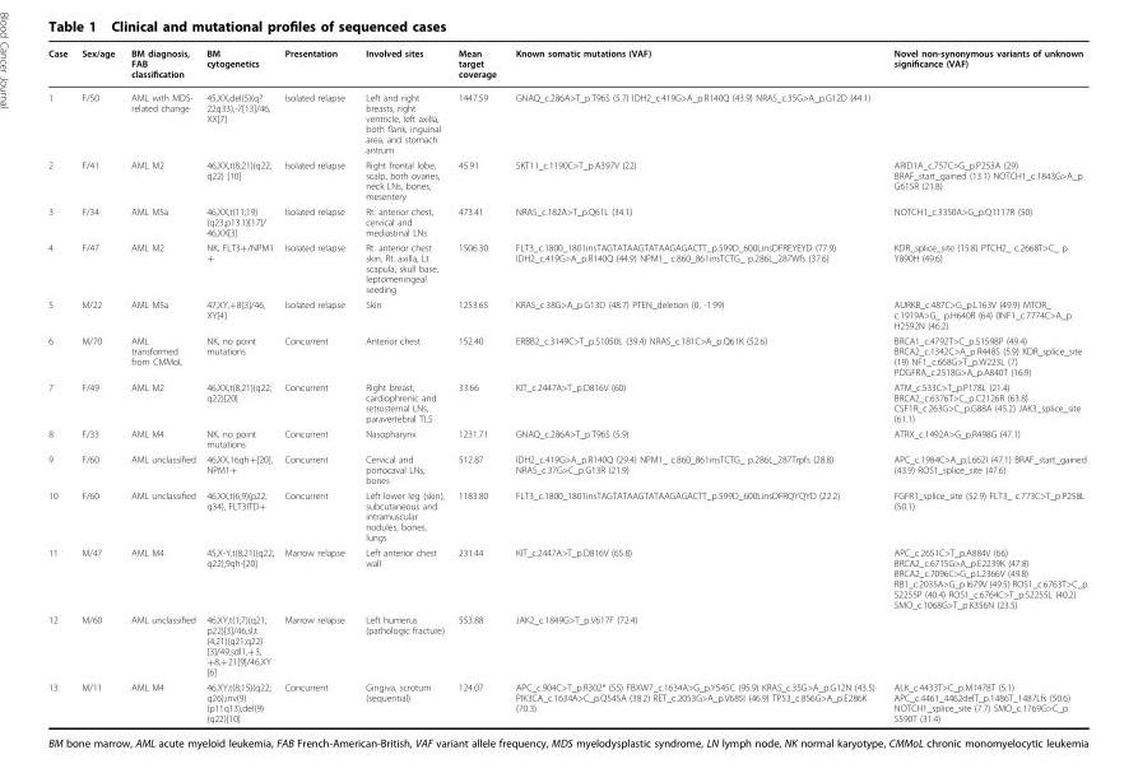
<table><thead><tr><td>Case</td><td>Sex/age</td><td>BM diagnosis, FAB classification</td><td>BM cytogenetics</td><td>Presentation</td><td>Involved sites</td><td>Mean target coverage</td><td>Known somatic mutations (VAF)</td><td>Novel non-synonymous variants of unknown significance (VAF)</td></tr></thead><tbody><tr><td>1</td><td>F/50</td><td>AML with MDS- related change</td><td>45,XX,del(5)(q? 22q33),-7[13]/46, XX[7]</td><td>Isolated relapse</td><td>Left and right breasts, right ventricle, left axilla, both flank, inguinal area, and stomach antrum</td><td>1447.59</td><td>GNAQ_c.286A&gt;T_p.T96S (5.7) IDH2_c.419G&gt;A_p.R140Q (43.9) NRAS_c.35G&gt;A_p.G12D (44.1)</td><td></td></tr><tr><td>2</td><td>F/41</td><td>AML M2</td><td>46,XX,t(8;21)(q22; q22) [10]</td><td>Isolated relapse</td><td>Right frontal lobe, scalp, both ovaries, neck LNs, bones, mesentery</td><td>45.91</td><td>SKT11_c.1190C&gt;T_p.A397V (22)</td><td>ARID1A_c.757C&gt;G_p.P253A (29) BRAF_start_gained (13.1) NOTCH1_c.1843G&gt;A_p. G615R (21.8)</td></tr><tr><td>3</td><td>F/34</td><td>AML M5a</td><td>46,XX,t(11;19) (q23;p13.1)[17]/ 46,XX[3]</td><td>Isolated relapse</td><td>Rt. anterior chest, cervical and mediastinal LNs</td><td>473.41</td><td>NRAS_c.182A&gt;T_p.Q61L (34.1)</td><td>NOTCH1_c.3350A&gt;G_p.Q1117R (50)</td></tr><tr><td>4</td><td>F/47</td><td>AML M2</td><td>NK, FLT3+/NPM1 +</td><td>Isolated relapse</td><td>Rt. anterior chest skin, Rt. axilla, Lt. scapula, skull base, leptomeningeal seeding</td><td>1506.30</td><td>FLT3_c.1800_1801insTAGTATAAGTATAAGAGACTT_p.599D_600LinsDFREYEYD (77.9) IDH2_c.419G&gt;A_p.R140Q (44.9) NPM1_ c.860_861insTCTG_ p.286L_287Wfs (37.6)</td><td>KDR_splice_site (15.8) PTCH2_ c.2668T&gt;C_ p. Y890H (49.6)</td></tr><tr><td>5</td><td>M/22</td><td>AML M5a</td><td>47,XY,+8[3]/46, XY[4]</td><td>Isolated relapse</td><td>Skin</td><td>1253.65</td><td>KRAS_c.38G&gt;A_p.G13D (48.7) PTEN_deletion (0, -1.99)</td><td>AURKB_c.487C&gt;G_p.L163V (49.9) MTOR_ c.1919A&gt;G_ p.H640R (64) 0NF1_c.7774C&gt;A_p. H2592N (46.2)</td></tr><tr><td>6</td><td>M/70</td><td>AML transformed from CMMoL</td><td>NK, no point mutations</td><td>Concurrent</td><td>Anterior chest</td><td>152.40</td><td>ERBB2_c.3149C&gt;T_p.S1050L (39.4) NRAS_c.181C&gt;A_p.Q61K (52.6)</td><td>BRCA1_c.4792T&gt;C_p.S1598P (49.4) BRCA2_c.1342C&gt;A_p.R448S (5.9) KDR_splice_site (19) NF1_c.668G&gt;T_p.W223L (7) PDGFRA_c.2518G&gt;A_p.A840T (16.9)</td></tr><tr><td>7</td><td>F/49</td><td>AML M2</td><td>46,XX,t(8;21)(q22; q22)[20]</td><td>Concurrent</td><td>Right breast, cardiophrenic and retrosternal LNs, paravertebral TLS</td><td>33.66</td><td>KIT_c.2447A&gt;T_p.D816V (60)</td><td>ATM_c.533C&gt;T_p.P178L (21.4) BRCA2_c.6376T&gt;C_p.C2126R (63.8) CSF1R_c.263G&gt;C_p.G88A (45.2) JAK3_splice_site (61.1)</td></tr><tr><td>8</td><td>F/33</td><td>AML M4</td><td>NK, no point mutations</td><td>Concurrent</td><td>Nasopharynx</td><td>1231.71</td><td>GNAQ_c.286A&gt;T_p.T96S (5.9)</td><td>ATRX_c.1492A&gt;G_p.R498G (47.1)</td></tr><tr><td>9</td><td>F/60</td><td>AML unclassified</td><td>46,XX,16qh+[20], NPM1+</td><td>Concurrent</td><td>Cervical and portocaval LNs, bones</td><td>512.87</td><td>IDH2_c.419G&gt;A_p.R140Q (29.4) NPM1_ c.860_861insTCTG_ p.286L_287Trpfs (28.8) NRAS_c.37G&gt;C_p.G13R (21.9)</td><td>APC_c.1984C&gt;A_p.L662I (47.1) BRAF_start_gained (43.9) ROS1_splice_site (47.6)</td></tr><tr><td>10</td><td>F/60</td><td>AML unclassified</td><td>46,XX,t(6;9)(p22; q34), FLT3ITD+</td><td>Concurrent</td><td>Left lower leg (skin), subcutaneous and intramuscular nodules, bones, lungs</td><td>1183.80</td><td>FLT3_c.1800_1801insTAGTATAAGTATAAGAGACTT_p.599D_600LinsDFRQYQYD (22.2)</td><td>FGFR1_splice_site (52.9) FLT3_ c.773C&gt;T_p.P258L (50.1)</td></tr><tr><td>11</td><td>M/47</td><td>AML M4</td><td>45,X-Y,t(8;21)(q22; q22),9qh-[20]</td><td>Marrow relapse</td><td>Left anterior chest wall</td><td>231.44</td><td>KIT_c.2447A&gt;T_p.D816V (65.8)</td><td>APC_c.2651C&gt;T_p.A884V (66) BRCA2_c.6715G&gt;A_p.E2239K (47.8) BRCA2_c.7096C&gt;G_p.L2366V (49.8) RB1_c.2035A&gt;G_p.I679V (49.5) ROS1_c.6763T&gt;C_p. S2255P (40.4) ROS1_c.6764C&gt;T_p.S2255L (40.2) SMO_c.1068G&gt;T_p.K356N (23.5)</td></tr><tr><td>12</td><td>M/60</td><td>AML unclassified</td><td>46,XY,t(1;7)(q21; p22)[3]/46,sl,t (4;21)(q21;q22) [3]/49,sdl1,+3, +8,+21[9]/46,XY [6]</td><td>Marrow relapse</td><td>Left humerus (pathologic fracture)</td><td>553.88</td><td>JAK2_c.1849G&gt;T_p.V617F (72.4)</td><td></td></tr><tr><td>13</td><td>M/11</td><td>AML M4</td><td>46,XY,t(8;15)(q22; q26),inv(9) (p11q13),del(9) (q22)[10]</td><td>Concurrent</td><td>Gingiva, scrotum (sequential)</td><td>124.07</td><td>APC_c.904C&gt;T_p.R302* (55) FBXW7_c.1634A&gt;G_p.Y545C (95.9) KRAS_c.35G&gt;A_p.G12N (43.5) PIK3CA_c.1634A&gt;C_p.Q545A (38.2) RET_c.2053G&gt;A_p.V685I (46.9) TP53_c.856G&gt;A_p.E286K (70.3)</td><td>ALK_c.4433T&gt;C_p.M1478T (5.1) APC_c.4461_4462delT_p.1486T_1487Lfs (50.6) NOTCH1_splice_site (7.7) SMO_c.1769G&gt;C_p. S590T (31.4)</td></tr></tbody></table>